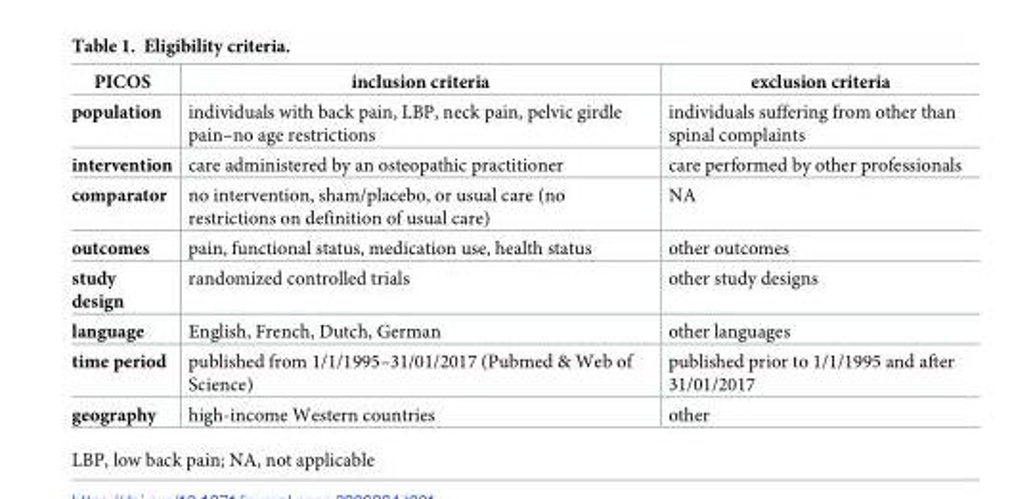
<table><thead><tr><td>PICOS</td><td>inclusion criteria</td><td>exclusion criteria</td></tr></thead><tbody><tr><td>population</td><td>individuals with back pain, LBP, neck pain, pelvic girdle pain–no age restrictions</td><td>individuals suffering from other than spinal complaints</td></tr><tr><td>intervention</td><td>care administered by an osteopathic practitioner</td><td>care performed by other professionals</td></tr><tr><td>comparator</td><td>no intervention, sham/placebo, or usual care (no restrictions on definition of usual care)</td><td>NA</td></tr><tr><td>outcomes</td><td>pain, functional status, medication use, health status</td><td>other outcomes</td></tr><tr><td>study design</td><td>randomized controlled trials</td><td>other study designs</td></tr><tr><td>language</td><td>English, French, Dutch, German</td><td>other languages</td></tr><tr><td>time period</td><td>published from 1/1/1995–31/01/2017 (Pubmed &amp; Web of Science)</td><td>published prior to 1/1/1995 and after 31/01/2017</td></tr><tr><td>geography</td><td>high-income Western countries</td><td>other</td></tr></tbody></table>